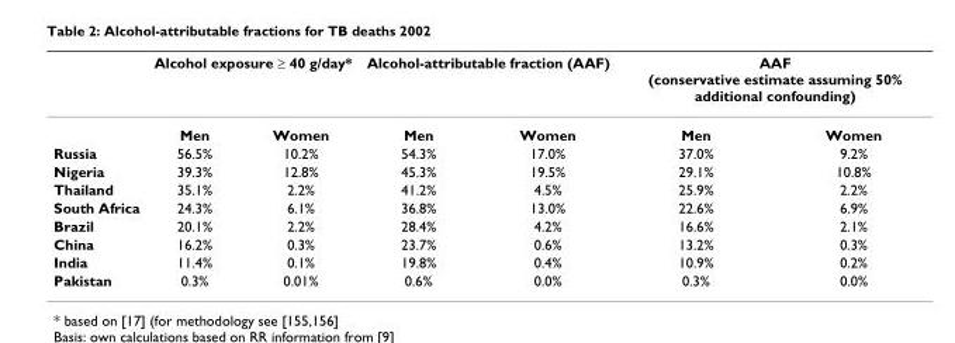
<table><thead><tr><td rowspan="2"></td><td colspan="2">Alcohol exposure ≥ 40 g/day*</td><td colspan="2">Alcohol-attributable fraction (AAF)</td><td colspan="2">AAF (conservative estimate assuming 50% additional confounding)</td></tr><tr><td>Men</td><td>Women</td><td>Men</td><td>Women</td><td>Men</td><td>Women</td></tr></thead><tbody><tr><td>Russia</td><td>56.5%</td><td>10.2%</td><td>54.3%</td><td>17.0%</td><td>37.0%</td><td>9.2%</td></tr><tr><td>Nigeria</td><td>39.3%</td><td>12.8%</td><td>45.3%</td><td>19.5%</td><td>29.1%</td><td>10.8%</td></tr><tr><td>Thailand</td><td>35.1%</td><td>2.2%</td><td>41.2%</td><td>4.5%</td><td>25.9%</td><td>2.2%</td></tr><tr><td>South Africa</td><td>24.3%</td><td>6.1%</td><td>36.8%</td><td>13.0%</td><td>22.6%</td><td>6.9%</td></tr><tr><td>Brazil</td><td>20.1%</td><td>2.2%</td><td>28.4%</td><td>4.2%</td><td>16.6%</td><td>2.1%</td></tr><tr><td>China</td><td>16.2%</td><td>0.3%</td><td>23.7%</td><td>0.6%</td><td>13.2%</td><td>0.3%</td></tr><tr><td>India</td><td>11.4%</td><td>0.1%</td><td>19.8%</td><td>0.4%</td><td>10.9%</td><td>0.2%</td></tr><tr><td>Pakistan</td><td>0.3%</td><td>0.01%</td><td>0.6%</td><td>0.0%</td><td>0.3%</td><td>0.0%</td></tr></tbody></table>